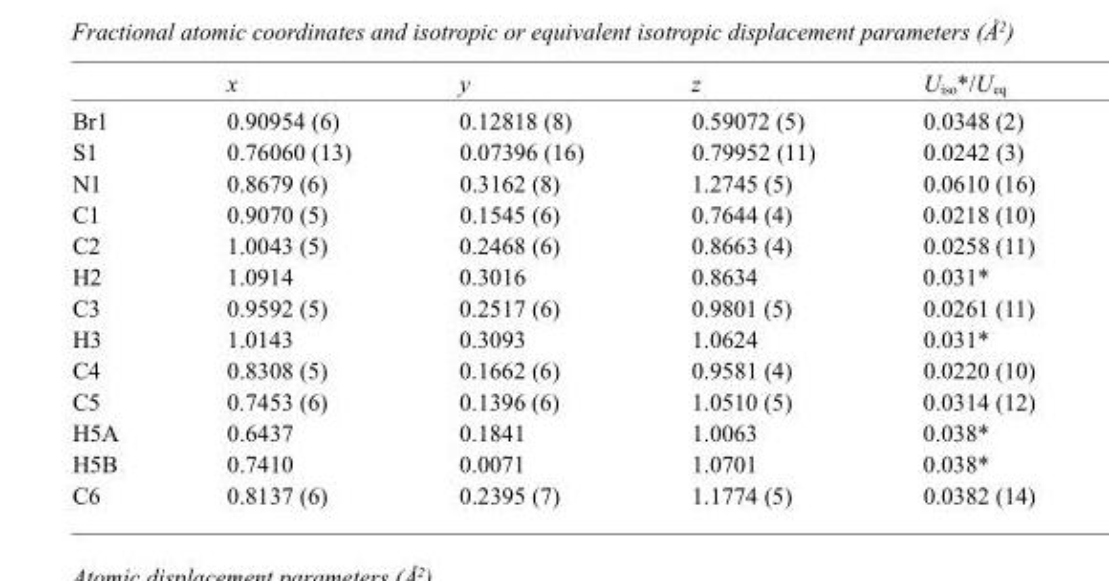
<table><thead><tr><td></td><td>x</td><td>y</td><td>z</td><td>U<sub>iso</sub>*/U<sub>eq</sub></td></tr></thead><tbody><tr><td>Br1</td><td>0.90954 (6)</td><td>0.12818 (8)</td><td>0.59072 (5)</td><td>0.0348 (2)</td></tr><tr><td>S1</td><td>0.76060 (13)</td><td>0.07396 (16)</td><td>0.79952 (11)</td><td>0.0242 (3)</td></tr><tr><td>N1</td><td>0.8679 (6)</td><td>0.3162 (8)</td><td>1.2745 (5)</td><td>0.0610 (16)</td></tr><tr><td>C1</td><td>0.9070 (5)</td><td>0.1545 (6)</td><td>0.7644 (4)</td><td>0.0218 (10)</td></tr><tr><td>C2</td><td>1.0043 (5)</td><td>0.2468 (6)</td><td>0.8663 (4)</td><td>0.0258 (11)</td></tr><tr><td>H2</td><td>1.0914</td><td>0.3016</td><td>0.8634</td><td>0.031*</td></tr><tr><td>C3</td><td>0.9592 (5)</td><td>0.2517 (6)</td><td>0.9801 (5)</td><td>0.0261 (11)</td></tr><tr><td>H3</td><td>1.0143</td><td>0.3093</td><td>1.0624</td><td>0.031*</td></tr><tr><td>C4</td><td>0.8308 (5)</td><td>0.1662 (6)</td><td>0.9581 (4)</td><td>0.0220 (10)</td></tr><tr><td>C5</td><td>0.7453 (6)</td><td>0.1396 (6)</td><td>1.0510 (5)</td><td>0.0314 (12)</td></tr><tr><td>H5A</td><td>0.6437</td><td>0.1841</td><td>1.0063</td><td>0.038*</td></tr><tr><td>H5B</td><td>0.7410</td><td>0.0071</td><td>1.0701</td><td>0.038*</td></tr><tr><td>C6</td><td>0.8137 (6)</td><td>0.2395 (7)</td><td>1.1774 (5)</td><td>0.0382 (14)</td></tr></tbody></table>